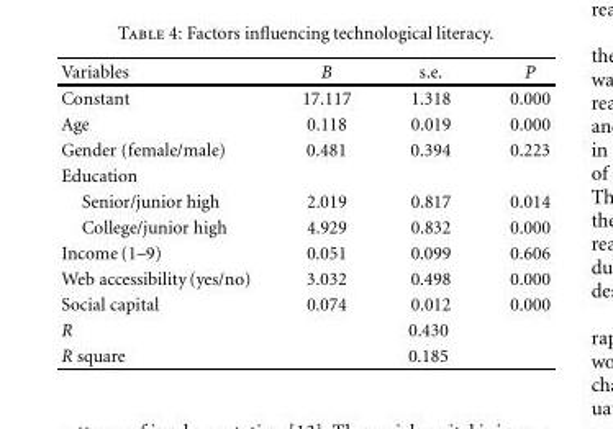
<table><thead><tr><td>Variables</td><td>B</td><td>s.e.</td><td>P</td></tr></thead><tbody><tr><td>Constant</td><td>17.117</td><td>1.318</td><td>0.000</td></tr><tr><td>Age</td><td>0.118</td><td>0.019</td><td>0.000</td></tr><tr><td>Gender (female/male)</td><td>0.481</td><td>0.394</td><td>0.223</td></tr><tr><td colspan="4">Education</td></tr><tr><td>Senior/junior high</td><td>2.019</td><td>0.817</td><td>0.014</td></tr><tr><td>College/junior high</td><td>4.929</td><td>0.832</td><td>0.000</td></tr><tr><td>Income (1–9)</td><td>0.051</td><td>0.099</td><td>0.606</td></tr><tr><td>Web accessibility (yes/no)</td><td>3.032</td><td>0.498</td><td>0.000</td></tr><tr><td>Social capital</td><td>0.074</td><td>0.012</td><td>0.000</td></tr><tr><td>R</td><td colspan="3">0.430</td></tr><tr><td>R square</td><td colspan="3">0.185</td></tr></tbody></table>